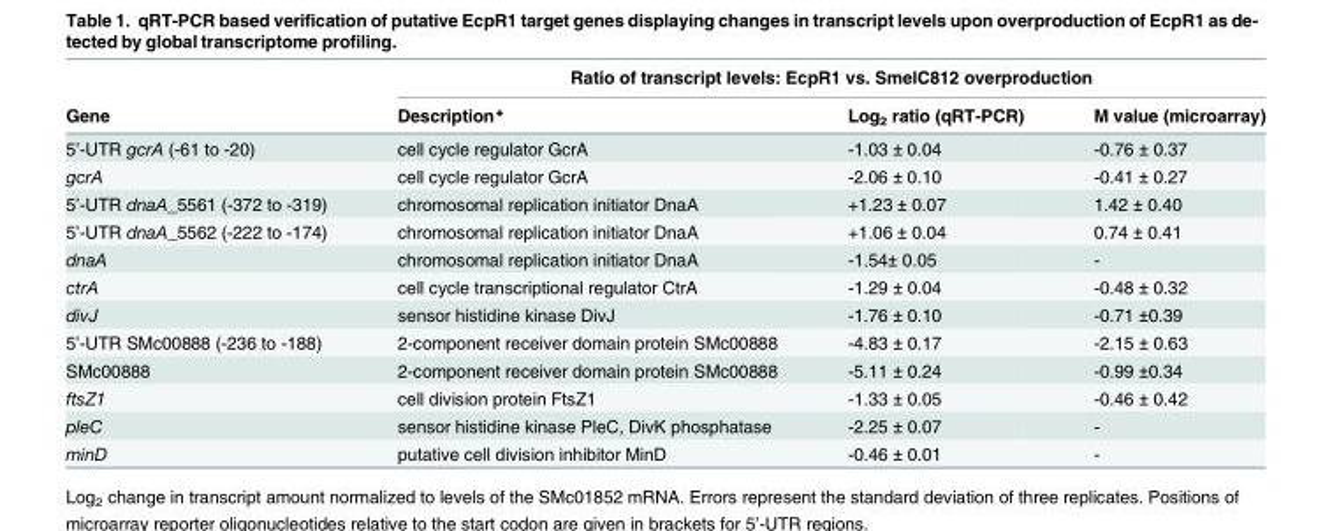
<table><thead><tr><td rowspan="2">Gene</td><td colspan="3">Ratio of transcript levels: EcpR1 vs. SmelC812 overproduction</td></tr><tr><td>Description*</td><td>Log<sub>2</sub> ratio (qRT-PCR)</td><td>M value (microarray)</td></tr></thead><tbody><tr><td>5’-UTR gcrA (-61 to -20)</td><td>cell cycle regulator GcrA</td><td>-1.03 ± 0.04</td><td>-0.76 ± 0.37</td></tr><tr><td>gcrA</td><td>cell cycle regulator GcrA</td><td>-2.06 ± 0.10</td><td>-0.41 ± 0.27</td></tr><tr><td>5’-UTR dnaA_5561 (-372 to -319)</td><td>chromosomal replication initiator DnaA</td><td>+1.23 ± 0.07</td><td>1.42 ± 0.40</td></tr><tr><td>5’-UTR dnaA_5562 (-222 to -174)</td><td>chromosomal replication initiator DnaA</td><td>+1.06 ± 0.04</td><td>0.74 ± 0.41</td></tr><tr><td>dnaA</td><td>chromosomal replication initiator DnaA</td><td>-1.54± 0.05</td><td>-</td></tr><tr><td>ctrA</td><td>cell cycle transcriptional regulator CtrA</td><td>-1.29 ± 0.04</td><td>-0.48 ± 0.32</td></tr><tr><td>divJ</td><td>sensor histidine kinase DivJ</td><td>-1.76 ± 0.10</td><td>-0.71 ±0.39</td></tr><tr><td>5’-UTR SMc00888 (-236 to -188)</td><td>2-component receiver domain protein SMc00888</td><td>-4.83 ± 0.17</td><td>-2.15 ± 0.63</td></tr><tr><td>SMc00888</td><td>2-component receiver domain protein SMc00888</td><td>-5.11 ± 0.24</td><td>-0.99 ±0.34</td></tr><tr><td>ftsZ1</td><td>cell division protein FtsZ1</td><td>-1.33 ± 0.05</td><td>-0.46 ± 0.42</td></tr><tr><td>pleC</td><td>sensor histidine kinase PleC, DivK phosphatase</td><td>-2.25 ± 0.07</td><td>-</td></tr><tr><td>minD</td><td>putative cell division inhibitor MinD</td><td>-0.46 ± 0.01</td><td>-</td></tr></tbody></table>